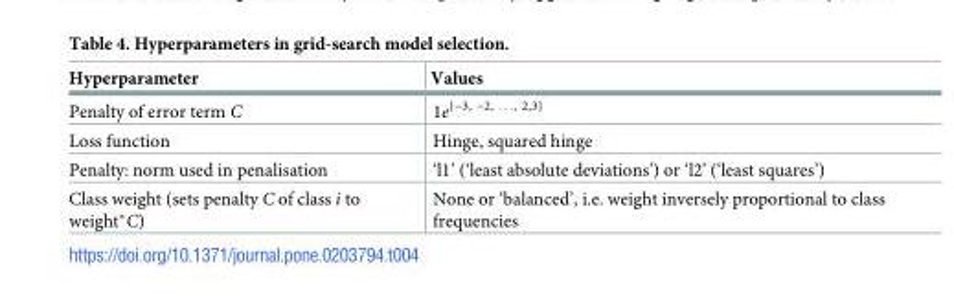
<table><thead><tr><td>Hyperparameter</td><td>Values</td></tr></thead><tbody><tr><td>Penalty of error term C</td><td>1e<sup>{−3, −2, . . ., 2,3}</sup></td></tr><tr><td>Loss function</td><td>Hinge, squared hinge</td></tr><tr><td>Penalty: norm used in penalisation</td><td>‘l1’ (‘least absolute deviations’) or ‘l2’ (‘least squares’)</td></tr><tr><td>Class weight (sets penalty C of class i to weight*C)</td><td>None or ‘balanced’, i.e. weight inversely proportional to class frequencies</td></tr></tbody></table>